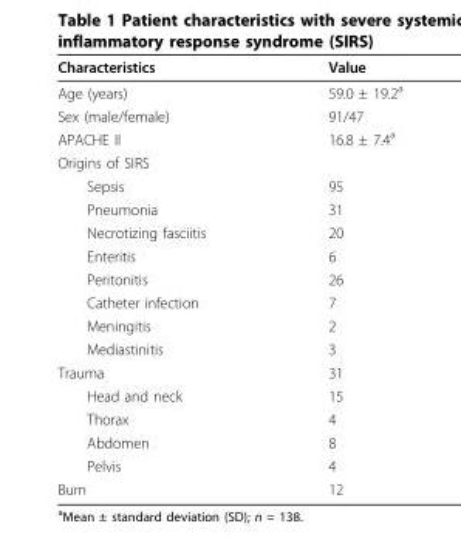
<table><thead><tr><td>Characteristics</td><td>Value</td></tr></thead><tbody><tr><td>Age (years)</td><td>59.0 ± 19.2<sup>a</sup></td></tr><tr><td>Sex (male/female)</td><td>91/47</td></tr><tr><td>APACHE II</td><td>16.8 ± 7.4<sup>a</sup></td></tr><tr><td colspan="2">Origins of SIRS</td></tr><tr><td>Sepsis</td><td>95</td></tr><tr><td>Pneumonia</td><td>31</td></tr><tr><td>Necrotizing fasciitis</td><td>20</td></tr><tr><td>Enteritis</td><td>6</td></tr><tr><td>Peritonitis</td><td>26</td></tr><tr><td>Catheter infection</td><td>7</td></tr><tr><td>Meningitis</td><td>2</td></tr><tr><td>Mediastinitis</td><td>3</td></tr><tr><td>Trauma</td><td>31</td></tr><tr><td>Head and neck</td><td>15</td></tr><tr><td>Thorax</td><td>4</td></tr><tr><td>Abdomen</td><td>8</td></tr><tr><td>Pelvis</td><td>4</td></tr><tr><td>Burn</td><td>12</td></tr></tbody></table>